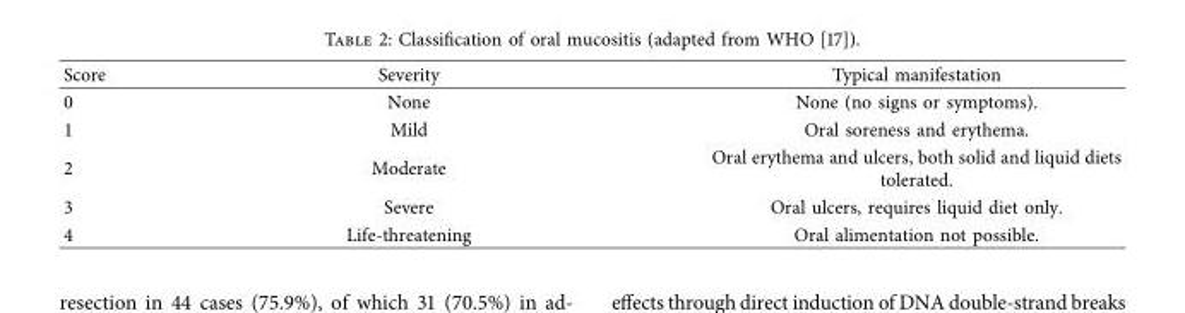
<table><thead><tr><td>Score</td><td>Severity</td><td>Typical manifestation</td></tr></thead><tbody><tr><td>0</td><td>None</td><td>None (no signs or symptoms).</td></tr><tr><td>1</td><td>Mild</td><td>Oral soreness and erythema.</td></tr><tr><td>2</td><td>Moderate</td><td>Oral erythema and ulcers, both solid and liquid diets tolerated.</td></tr><tr><td>3</td><td>Severe</td><td>Oral ulcers, requires liquid diet only.</td></tr><tr><td>4</td><td>Life-threatening</td><td>Oral alimentation not possible.</td></tr></tbody></table>